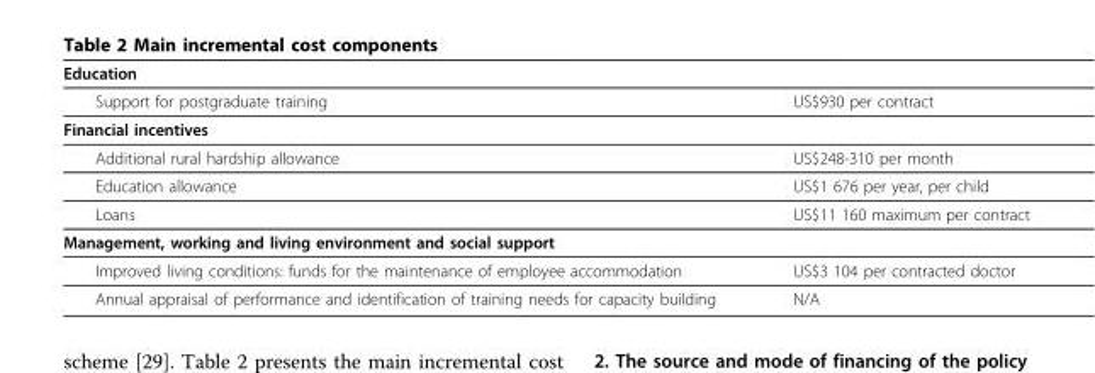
<table><thead><tr><td>Education</td><td></td></tr></thead><tbody><tr><td>Support for postgraduate training</td><td>US$930 per contract</td></tr><tr><td colspan="2">Financial incentives</td></tr><tr><td>Additional rural hardship allowance</td><td>US$248-310 per month</td></tr><tr><td>Education allowance</td><td>US$1 676 per year, per child</td></tr><tr><td>Loans</td><td>US$11 160 maximum per contract</td></tr><tr><td colspan="2">Management, working and living environment and social support</td></tr><tr><td>Improved living conditions: funds for the maintenance of employee accommodation</td><td>US$3 104 per contracted doctor</td></tr><tr><td>Annual appraisal of performance and identification of training needs for capacity building</td><td>N/A</td></tr></tbody></table>